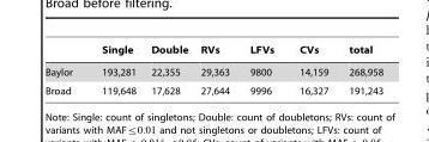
<table><thead><tr><td></td><td>Single</td><td>Double</td><td>RVs</td><td>LFVs</td><td>CVs</td><td>total</td></tr></thead><tbody><tr><td>Baylor</td><td>193,281</td><td>22,355</td><td>29,363</td><td>9800</td><td>14,159</td><td>268,958</td></tr><tr><td>Broad</td><td>119,648</td><td>17,628</td><td>27,644</td><td>9996</td><td>16,327</td><td>191,243</td></tr></tbody></table>